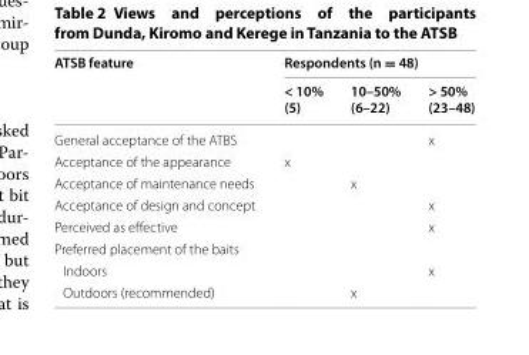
<table><thead><tr><td rowspan="2">ATSB feature</td><td colspan="3">Respondents (n = 48)</td></tr><tr><td>&lt; 10% (5)</td><td>10–50% (6–22)</td><td>&gt; 50% (23–48)</td></tr></thead><tbody><tr><td>General acceptance of the ATBS</td><td></td><td></td><td>x</td></tr><tr><td>Acceptance of the appearance</td><td>x</td><td></td><td></td></tr><tr><td>Acceptance of maintenance needs</td><td></td><td>x</td><td></td></tr><tr><td>Acceptance of design and concept</td><td></td><td></td><td>x</td></tr><tr><td>Perceived as effective</td><td></td><td></td><td>x</td></tr><tr><td colspan="4">Preferred placement of the baits</td></tr><tr><td>Indoors</td><td></td><td></td><td>x</td></tr><tr><td>Outdoors (recommended)</td><td></td><td>x</td><td></td></tr></tbody></table>